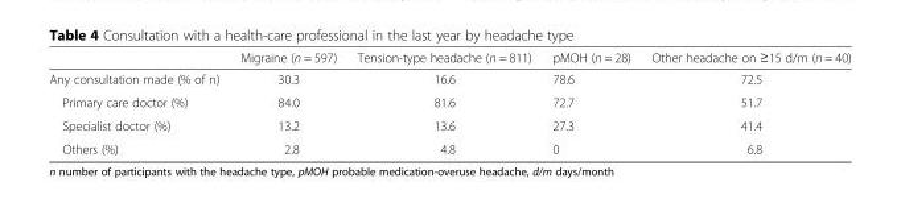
<table><thead><tr><td></td><td>Migraine (n = 597)</td><td>Tension-type headache (n = 811)</td><td>pMOH (n = 28)</td><td>Other headache on ≥15 d/m (n = 40)</td></tr></thead><tbody><tr><td>Any consultation made (% of n)</td><td>30.3</td><td>16.6</td><td>78.6</td><td>72.5</td></tr><tr><td>Primary care doctor (%)</td><td>84.0</td><td>81.6</td><td>72.7</td><td>51.7</td></tr><tr><td>Specialist doctor (%)</td><td>13.2</td><td>13.6</td><td>27.3</td><td>41.4</td></tr><tr><td>Others (%)</td><td>2.8</td><td>4.8</td><td>0</td><td>6.8</td></tr></tbody></table>